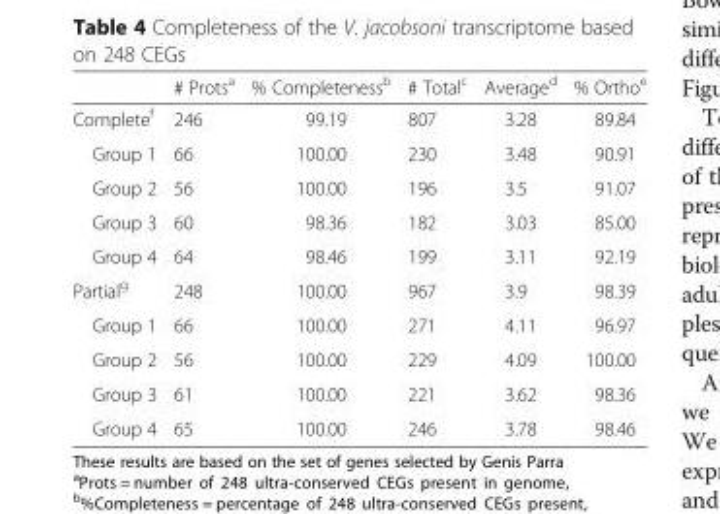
<table><thead><tr><td></td><td># Prots<sup>a</sup></td><td>% Completeness<sup>b</sup></td><td># Total<sup>c</sup></td><td>Average<sup>d</sup></td><td>% Ortho<sup>e</sup></td></tr></thead><tbody><tr><td>Complete<sup>f</sup></td><td>246</td><td>99.19</td><td>807</td><td>3.28</td><td>89.84</td></tr><tr><td>Group 1</td><td>66</td><td>100.00</td><td>230</td><td>3.48</td><td>90.91</td></tr><tr><td>Group 2</td><td>56</td><td>100.00</td><td>196</td><td>3.5</td><td>91.07</td></tr><tr><td>Group 3</td><td>60</td><td>98.36</td><td>182</td><td>3.03</td><td>85.00</td></tr><tr><td>Group 4</td><td>64</td><td>98.46</td><td>199</td><td>3.11</td><td>92.19</td></tr><tr><td>Partial<sup>g</sup></td><td>248</td><td>100.00</td><td>967</td><td>3.9</td><td>98.39</td></tr><tr><td>Group 1</td><td>66</td><td>100.00</td><td>271</td><td>4.11</td><td>96.97</td></tr><tr><td>Group 2</td><td>56</td><td>100.00</td><td>229</td><td>4.09</td><td>100.00</td></tr><tr><td>Group 3</td><td>61</td><td>100.00</td><td>221</td><td>3.62</td><td>98.36</td></tr><tr><td>Group 4</td><td>65</td><td>100.00</td><td>246</td><td>3.78</td><td>98.46</td></tr></tbody></table>